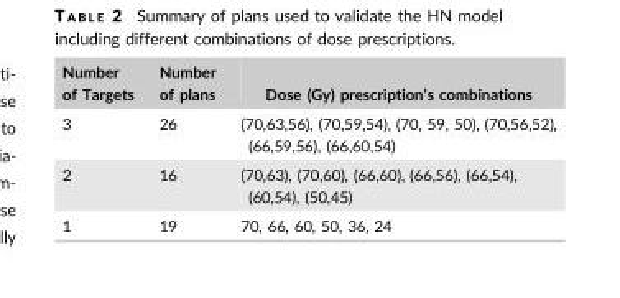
<table><thead><tr><td>Number of Targets</td><td>Number of plans</td><td>Dose (Gy) prescription’s combinations</td></tr></thead><tbody><tr><td>3</td><td>26</td><td>(70,63,56), (70,59,54), (70, 59, 50), (70,56,52), (66,59,56), (66,60,54)</td></tr><tr><td>2</td><td>16</td><td>(70,63), (70,60), (66,60), (66,56), (66,54), (60,54), (50,45)</td></tr><tr><td>1</td><td>19</td><td>70, 66, 60, 50, 36, 24</td></tr></tbody></table>